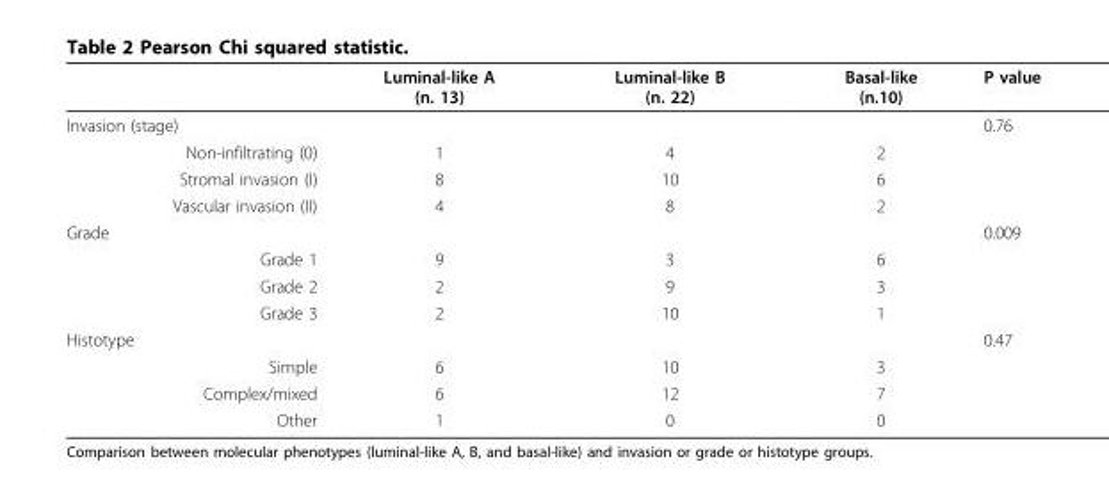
<table><thead><tr><td></td><td>Luminal-like A (n. 13)</td><td>Luminal-like B (n. 22)</td><td>Basal-like (n.10)</td><td>P value</td></tr></thead><tbody><tr><td>Invasion (stage)</td><td></td><td></td><td></td><td>0.76</td></tr><tr><td>Non-infiltrating (0)</td><td>1</td><td>4</td><td>2</td><td></td></tr><tr><td>Stromal invasion (I)</td><td>8</td><td>10</td><td>6</td><td></td></tr><tr><td>Vascular invasion (II)</td><td>4</td><td>8</td><td>2</td><td></td></tr><tr><td>Grade</td><td></td><td></td><td></td><td>0.009</td></tr><tr><td>Grade 1</td><td>9</td><td>3</td><td>6</td><td></td></tr><tr><td>Grade 2</td><td>2</td><td>9</td><td>3</td><td></td></tr><tr><td>Grade 3</td><td>2</td><td>10</td><td>1</td><td></td></tr><tr><td>Histotype</td><td></td><td></td><td></td><td>0.47</td></tr><tr><td>Simple</td><td>6</td><td>10</td><td>3</td><td></td></tr><tr><td>Complex/mixed</td><td>6</td><td>12</td><td>7</td><td></td></tr><tr><td>Other</td><td>1</td><td>0</td><td>0</td><td></td></tr></tbody></table>